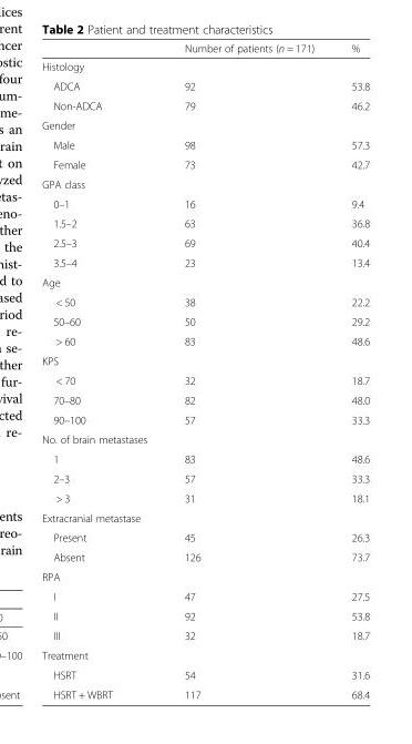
<table><thead><tr><td></td><td>Number of patients (n = 171)</td><td>%</td></tr></thead><tbody><tr><td colspan="3">Histology</td></tr><tr><td>ADCA</td><td>92</td><td>53.8</td></tr><tr><td>Non-ADCA</td><td>79</td><td>46.2</td></tr><tr><td colspan="3">Gender</td></tr><tr><td>Male</td><td>98</td><td>57.3</td></tr><tr><td>Female</td><td>73</td><td>42.7</td></tr><tr><td colspan="3">GPA class</td></tr><tr><td>0–1</td><td>16</td><td>9.4</td></tr><tr><td>1.5–2</td><td>63</td><td>36.8</td></tr><tr><td>2.5–3</td><td>69</td><td>40.4</td></tr><tr><td>3.5–4</td><td>23</td><td>13.4</td></tr><tr><td colspan="3">Age</td></tr><tr><td>&lt; 50</td><td>38</td><td>22.2</td></tr><tr><td>50–60</td><td>50</td><td>29.2</td></tr><tr><td>&gt; 60</td><td>83</td><td>48.6</td></tr><tr><td colspan="3">KPS</td></tr><tr><td>&lt; 70</td><td>32</td><td>18.7</td></tr><tr><td>70–80</td><td>82</td><td>48.0</td></tr><tr><td>90–100</td><td>57</td><td>33.3</td></tr><tr><td colspan="3">No. of brain metastases</td></tr><tr><td>1</td><td>83</td><td>48.6</td></tr><tr><td>2–3</td><td>57</td><td>33.3</td></tr><tr><td>&gt; 3</td><td>31</td><td>18.1</td></tr><tr><td colspan="3">Extracranial metastase</td></tr><tr><td>Present</td><td>45</td><td>26.3</td></tr><tr><td>Absent</td><td>126</td><td>73.7</td></tr><tr><td colspan="3">RPA</td></tr><tr><td>I</td><td>47</td><td>27.5</td></tr><tr><td>II</td><td>92</td><td>53.8</td></tr><tr><td>III</td><td>32</td><td>18.7</td></tr><tr><td colspan="3">Treatment</td></tr><tr><td>HSRT</td><td>54</td><td>31.6</td></tr><tr><td>HSRT + WBRT</td><td>117</td><td>68.4</td></tr></tbody></table>